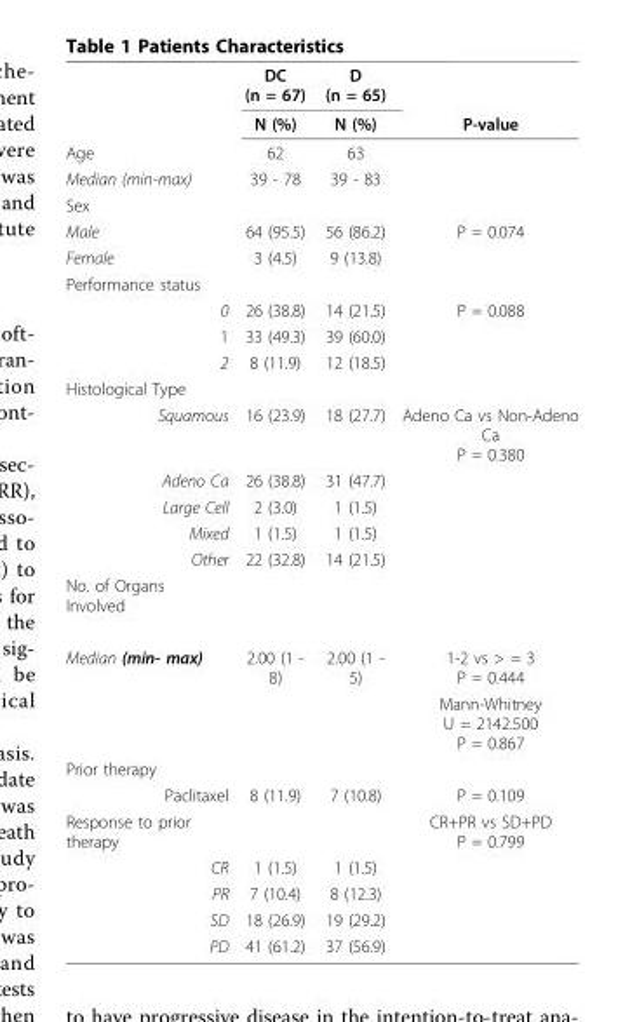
<table><thead><tr><td></td><td>DC (n = 67)</td><td>D (n = 65)</td><td></td></tr></thead><tbody><tr><td></td><td>N (%)</td><td>N (%)</td><td>P-value</td></tr><tr><td>Age</td><td>62</td><td>63</td><td></td></tr><tr><td>Median (min-max)</td><td>39 - 78</td><td>39 - 83</td><td></td></tr><tr><td colspan="4">Sex</td></tr><tr><td>Male</td><td>64 (95.5)</td><td>56 (86.2)</td><td>P = 0.074</td></tr><tr><td>Female</td><td>3 (4.5)</td><td>9 (13.8)</td><td></td></tr><tr><td colspan="4">Performance status</td></tr><tr><td>0</td><td>26 (38.8)</td><td>14 (21.5)</td><td>P = 0.088</td></tr><tr><td>1</td><td>33 (49.3)</td><td>39 (60.0)</td><td></td></tr><tr><td>2</td><td>8 (11.9)</td><td>12 (18.5)</td><td></td></tr><tr><td colspan="4">Histological Type</td></tr><tr><td>Squamous</td><td>16 (23.9)</td><td>18 (27.7)</td><td>Adeno Ca vs Non-Adeno Ca P = 0.380</td></tr><tr><td>Adeno Ca</td><td>26 (38.8)</td><td>31 (47.7)</td><td></td></tr><tr><td>Large Cell</td><td>2 (3.0)</td><td>1 (1.5)</td><td></td></tr><tr><td>Mixed</td><td>1 (1.5)</td><td>1 (1.5)</td><td></td></tr><tr><td>Other</td><td>22 (32.8)</td><td>14 (21.5)</td><td></td></tr><tr><td colspan="4">No. of Organs Involved</td></tr><tr><td rowspan="2">Median (min- max)</td><td>2.00 (1 - 8)</td><td>2.00 (1 - 5)</td><td>1-2 vs &gt; = 3 P = 0.444</td></tr><tr><td></td><td></td><td>Mann-Whitney U = 2142.500 P = 0.867</td></tr><tr><td colspan="4">Prior therapy</td></tr><tr><td>Paclitaxel</td><td>8 (11.9)</td><td>7 (10.8)</td><td>P = 0.109</td></tr><tr><td>Response to prior therapy</td><td></td><td></td><td>CR+PR vs SD+PD P = 0.799</td></tr><tr><td>CR</td><td>1 (1.5)</td><td>1 (1.5)</td><td></td></tr><tr><td>PR</td><td>7 (10.4)</td><td>8 (12.3)</td><td></td></tr><tr><td>SD</td><td>18 (26.9)</td><td>19 (29.2)</td><td></td></tr><tr><td>PD</td><td>41 (61.2)</td><td>37 (56.9)</td><td></td></tr></tbody></table>